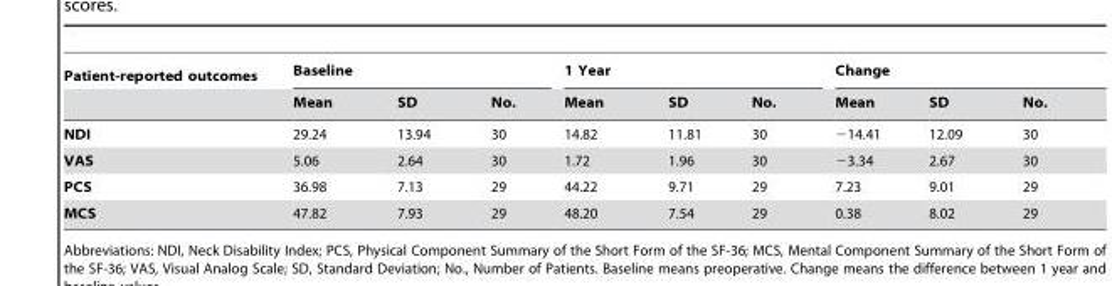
<table><thead><tr><td rowspan="2">Patient-reported outcomes</td><td colspan="3">Baseline</td><td colspan="3">1 Year</td><td colspan="3">Change</td></tr><tr><td>Mean</td><td>SD</td><td>No.</td><td>Mean</td><td>SD</td><td>No.</td><td>Mean</td><td>SD</td><td>No.</td></tr></thead><tbody><tr><td>NDI</td><td>29.24</td><td>13.94</td><td>30</td><td>14.82</td><td>11.81</td><td>30</td><td>−14.41</td><td>12.09</td><td>30</td></tr><tr><td>VAS</td><td>5.06</td><td>2.64</td><td>30</td><td>1.72</td><td>1.96</td><td>30</td><td>−3.34</td><td>2.67</td><td>30</td></tr><tr><td>PCS</td><td>36.98</td><td>7.13</td><td>29</td><td>44.22</td><td>9.71</td><td>29</td><td>7.23</td><td>9.01</td><td>29</td></tr><tr><td>MCS</td><td>47.82</td><td>7.93</td><td>29</td><td>48.20</td><td>7.54</td><td>29</td><td>0.38</td><td>8.02</td><td>29</td></tr></tbody></table>